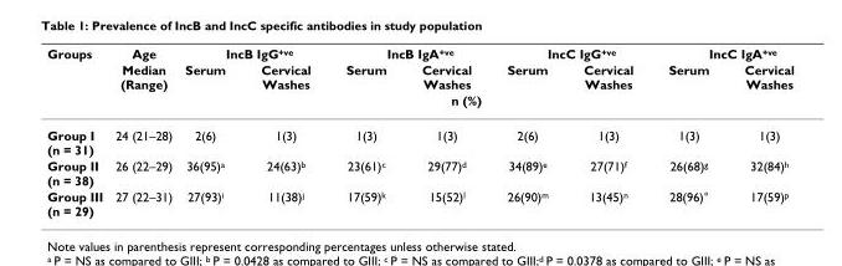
<table><thead><tr><td rowspan="3">Groups</td><td rowspan="2">Age Median (Range)</td><td colspan="2">IncB IgG<sup>+ve</sup></td><td colspan="2">IncB IgA<sup>+ve</sup></td><td colspan="2">IncC IgG<sup>+ve</sup></td><td colspan="2">IncC IgA<sup>+ve</sup></td></tr><tr><td>Serum</td><td>Cervical Washes</td><td>Serum</td><td>Cervical Washes</td><td>Serum</td><td>Cervical Washes</td><td>Serum</td><td>Cervical Washes</td></tr><tr><td colspan="9">n (%)</td></tr></thead><tbody><tr><td>Group I (n = 31)</td><td>24 (21–28)</td><td>2(6)</td><td>1(3)</td><td>1(3)</td><td>1(3)</td><td>2(6)</td><td>1(3)</td><td>1(3)</td><td>1(3)</td></tr><tr><td>Group II (n = 38)</td><td>26 (22–29)</td><td>36(95)<sup>a</sup></td><td>24(63)<sup>b</sup></td><td>23(61)<sup>c</sup></td><td>29(77)<sup>d</sup></td><td>34(89)<sup>e</sup></td><td>27(71)<sup>f</sup></td><td>26(68)<sup>g</sup></td><td>32(84)<sup>h</sup></td></tr><tr><td>Group III (n = 29)</td><td>27 (22–31)</td><td>27(93)<sup>i</sup></td><td>11(38)<sup>j</sup></td><td>17(59)<sup>k</sup></td><td>15(52)<sup>l</sup></td><td>26(90)<sup>m</sup></td><td>13(45)<sup>n</sup></td><td>28(96)°</td><td>17(59)<sup>p</sup></td></tr></tbody></table>